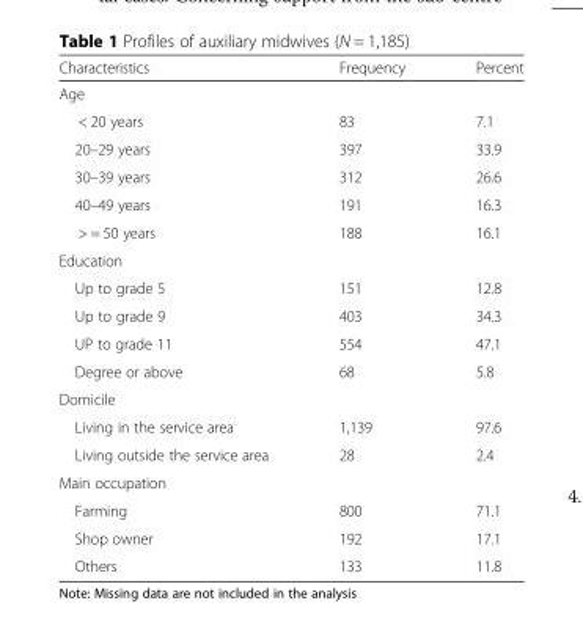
<table><thead><tr><td>Characteristics</td><td>Frequency</td><td>Percent</td></tr></thead><tbody><tr><td colspan="3">Age</td></tr><tr><td>&lt; 20 years</td><td>83</td><td>7.1</td></tr><tr><td>20–29 years</td><td>397</td><td>33.9</td></tr><tr><td>30–39 years</td><td>312</td><td>26.6</td></tr><tr><td>40–49 years</td><td>191</td><td>16.3</td></tr><tr><td>&gt; = 50 years</td><td>188</td><td>16.1</td></tr><tr><td colspan="3">Education</td></tr><tr><td>Up to grade 5</td><td>151</td><td>12.8</td></tr><tr><td>Up to grade 9</td><td>403</td><td>34.3</td></tr><tr><td>UP to grade 11</td><td>554</td><td>47.1</td></tr><tr><td>Degree or above</td><td>68</td><td>5.8</td></tr><tr><td colspan="3">Domicile</td></tr><tr><td>Living in the service area</td><td>1,139</td><td>97.6</td></tr><tr><td>Living outside the service area</td><td>28</td><td>2.4</td></tr><tr><td colspan="3">Main occupation</td></tr><tr><td>Farming</td><td>800</td><td>71.1</td></tr><tr><td>Shop owner</td><td>192</td><td>17.1</td></tr><tr><td>Others</td><td>133</td><td>11.8</td></tr></tbody></table>